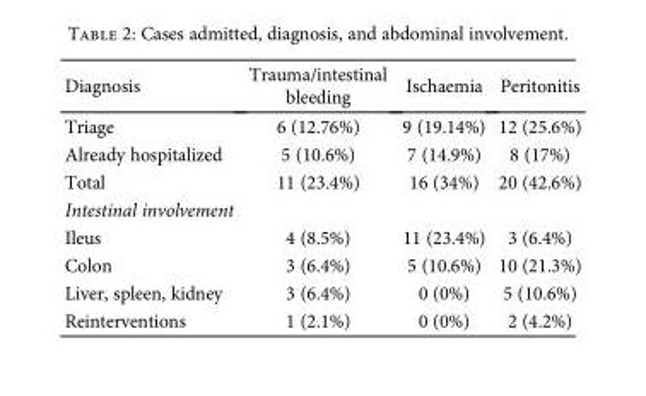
<table><thead><tr><td>Diagnosis</td><td>Trauma/intestinal bleeding</td><td>Ischaemia</td><td>Peritonitis</td></tr></thead><tbody><tr><td>Triage</td><td>6 (12.76%)</td><td>9 (19.14%)</td><td>12 (25.6%)</td></tr><tr><td>Already hospitalized</td><td>5 (10.6%)</td><td>7 (14.9%)</td><td>8 (17%)</td></tr><tr><td>Total</td><td>11 (23.4%)</td><td>16 (34%)</td><td>20 (42.6%)</td></tr><tr><td colspan="4">Intestinal involvement</td></tr><tr><td>Ileus</td><td>4 (8.5%)</td><td>11 (23.4%)</td><td>3 (6.4%)</td></tr><tr><td>Colon</td><td>3 (6.4%)</td><td>5 (10.6%)</td><td>10 (21.3%)</td></tr><tr><td>Liver, spleen, kidney</td><td>3 (6.4%)</td><td>0 (0%)</td><td>5 (10.6%)</td></tr><tr><td>Reinterventions</td><td>1 (2.1%)</td><td>0 (0%)</td><td>2 (4.2%)</td></tr></tbody></table>